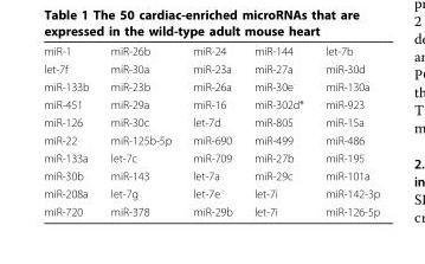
<table><tbody><tr><td>miR-1</td><td>miR-26b</td><td>miR-24</td><td>miR-144</td><td>let-7b</td></tr><tr><td>let-7f</td><td>miR-30a</td><td>miR-23a</td><td>miR-27a</td><td>miR-30d</td></tr><tr><td>miR-133b</td><td>miR-23b</td><td>miR-26a</td><td>miR-30e</td><td>miR-130a</td></tr><tr><td>miR-451</td><td>miR-29a</td><td>miR-16</td><td>miR-302d*</td><td>miR-923</td></tr><tr><td>miR-126</td><td>miR-30c</td><td>let-7d</td><td>miR-805</td><td>miR-15a</td></tr><tr><td>miR-22</td><td>miR-125b-5p</td><td>miR-690</td><td>miR-499</td><td>miR-486</td></tr><tr><td>miR-133a</td><td>let-7c</td><td>miR-709</td><td>miR-27b</td><td>miR-195</td></tr><tr><td>miR-30b</td><td>miR-143</td><td>let-7a</td><td>miR-29c</td><td>miR-101a</td></tr><tr><td>miR-208a</td><td>let-7g</td><td>let-7e</td><td>let-7i</td><td>miR-142-3p</td></tr><tr><td>miR-720</td><td>miR-378</td><td>miR-29b</td><td>let-7i</td><td>miR-126-5p</td></tr></tbody></table>